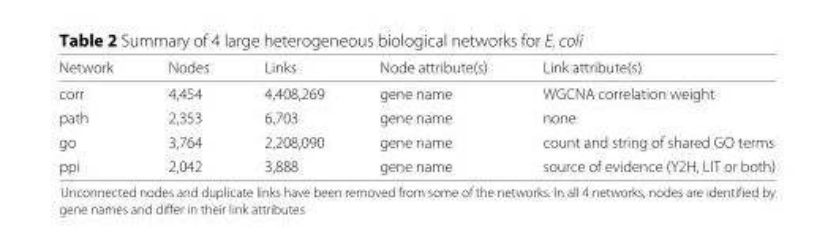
<table><thead><tr><td>Network</td><td>Nodes</td><td>Links</td><td>Node attribute(s)</td><td>Link attribute(s)</td></tr></thead><tbody><tr><td>corr</td><td>4,454</td><td>4,408,269</td><td>gene name</td><td>WGCNA correlation weight</td></tr><tr><td>path</td><td>2,353</td><td>6,703</td><td>gene name</td><td>none</td></tr><tr><td>go</td><td>3,764</td><td>2,208,090</td><td>gene name</td><td>count and string of shared GO terms</td></tr><tr><td>ppi</td><td>2,042</td><td>3,888</td><td>gene name</td><td>source of evidence (Y2H, LIT or both)</td></tr></tbody></table>